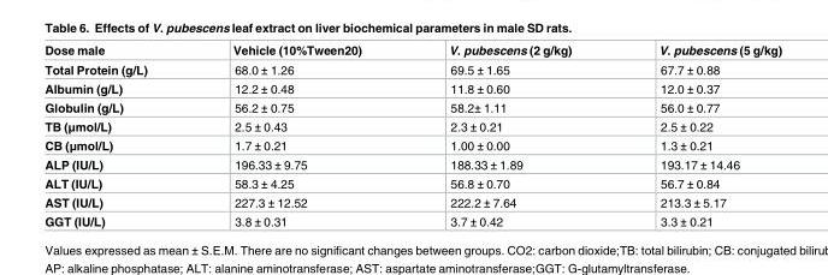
<table><thead><tr><td>Dose male</td><td>Vehicle (10%Tween20)</td><td>V. pubescens (2 g/kg)</td><td>V. pubescens (5 g/kg)</td></tr></thead><tbody><tr><td>Total Protein (g/L)</td><td>68.0 ± 1.26</td><td>69.5 ± 1.65</td><td>67.7 ± 0.88</td></tr><tr><td>Albumin (g/L)</td><td>12.2 ± 0.48</td><td>11.8 ± 0.60</td><td>12.0 ± 0.37</td></tr><tr><td>Globulin (g/L)</td><td>56.2 ± 0.75</td><td>58.2± 1.11</td><td>56.0 ± 0.77</td></tr><tr><td>TB (μmol/L)</td><td>2.5 ± 0.43</td><td>2.3 ± 0.21</td><td>2.5 ± 0.22</td></tr><tr><td>CB (μmol/L)</td><td>1.7 ± 0.21</td><td>1.00 ± 0.00</td><td>1.3 ± 0.21</td></tr><tr><td>ALP (IU/L)</td><td>196.33 ± 9.75</td><td>188.33 ± 1.89</td><td>193.17 ± 14.46</td></tr><tr><td>ALT (IU/L)</td><td>58.3 ± 4.25</td><td>56.8 ± 0.70</td><td>56.7 ± 0.84</td></tr><tr><td>AST (IU/L)</td><td>227.3 ± 12.52</td><td>222.2 ± 7.64</td><td>213.3 ± 5.17</td></tr><tr><td>GGT (IU/L)</td><td>3.8 ± 0.31</td><td>3.7 ± 0.42</td><td>3.3 ± 0.21</td></tr></tbody></table>